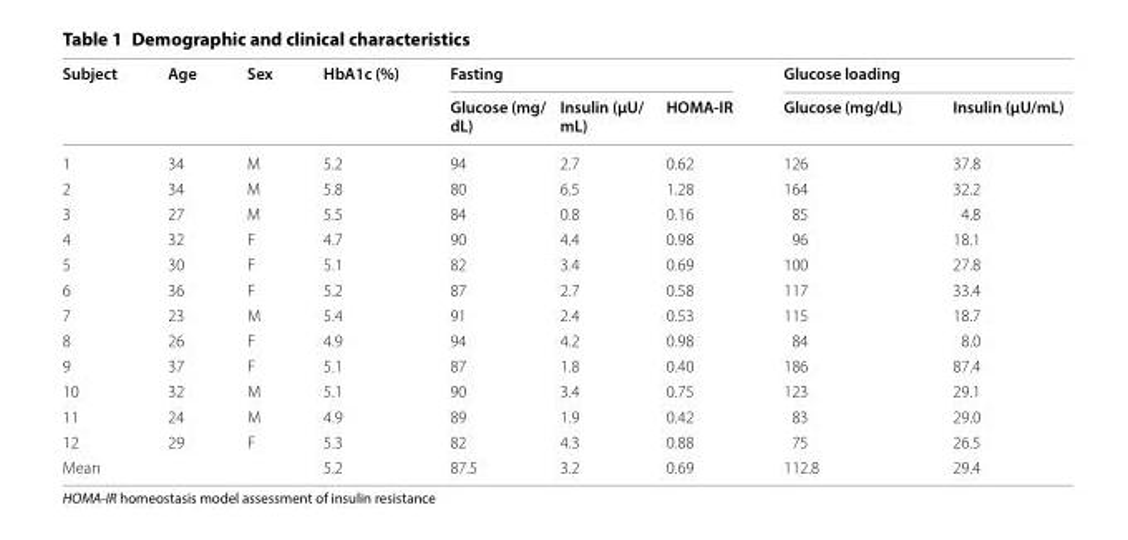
<table><thead><tr><td rowspan="2">Subject</td><td rowspan="2">Age</td><td rowspan="2">Sex</td><td rowspan="2">HbA1c (%)</td><td colspan="3">Fasting</td><td colspan="2">Glucose loading</td></tr><tr><td>Glucose (mg/ dL)</td><td>Insulin (μU/ mL)</td><td>HOMA‑IR</td><td>Glucose (mg/dL)</td><td>Insulin (μU/mL)</td></tr></thead><tbody><tr><td>1</td><td>34</td><td>M</td><td>5.2</td><td>94</td><td>2.7</td><td>0.62</td><td>126</td><td>37.8</td></tr><tr><td>2</td><td>34</td><td>M</td><td>5.8</td><td>80</td><td>6.5</td><td>1.28</td><td>164</td><td>32.2</td></tr><tr><td>3</td><td>27</td><td>M</td><td>5.5</td><td>84</td><td>0.8</td><td>0.16</td><td>85</td><td>4.8</td></tr><tr><td>4</td><td>32</td><td>F</td><td>4.7</td><td>90</td><td>4.4</td><td>0.98</td><td>96</td><td>18.1</td></tr><tr><td>5</td><td>30</td><td>F</td><td>5.1</td><td>82</td><td>3.4</td><td>0.69</td><td>100</td><td>27.8</td></tr><tr><td>6</td><td>36</td><td>F</td><td>5.2</td><td>87</td><td>2.7</td><td>0.58</td><td>117</td><td>33.4</td></tr><tr><td>7</td><td>23</td><td>M</td><td>5.4</td><td>91</td><td>2.4</td><td>0.53</td><td>115</td><td>18.7</td></tr><tr><td>8</td><td>26</td><td>F</td><td>4.9</td><td>94</td><td>4.2</td><td>0.98</td><td>84</td><td>8.0</td></tr><tr><td>9</td><td>37</td><td>F</td><td>5.1</td><td>87</td><td>1.8</td><td>0.40</td><td>186</td><td>87.4</td></tr><tr><td>10</td><td>32</td><td>M</td><td>5.1</td><td>90</td><td>3.4</td><td>0.75</td><td>123</td><td>29.1</td></tr><tr><td>11</td><td>24</td><td>M</td><td>4.9</td><td>89</td><td>1.9</td><td>0.42</td><td>83</td><td>29.0</td></tr><tr><td>12</td><td>29</td><td>F</td><td>5.3</td><td>82</td><td>4.3</td><td>0.88</td><td>75</td><td>26.5</td></tr><tr><td>Mean</td><td></td><td></td><td>5.2</td><td>87.5</td><td>3.2</td><td>0.69</td><td>112.8</td><td>29.4</td></tr></tbody></table>